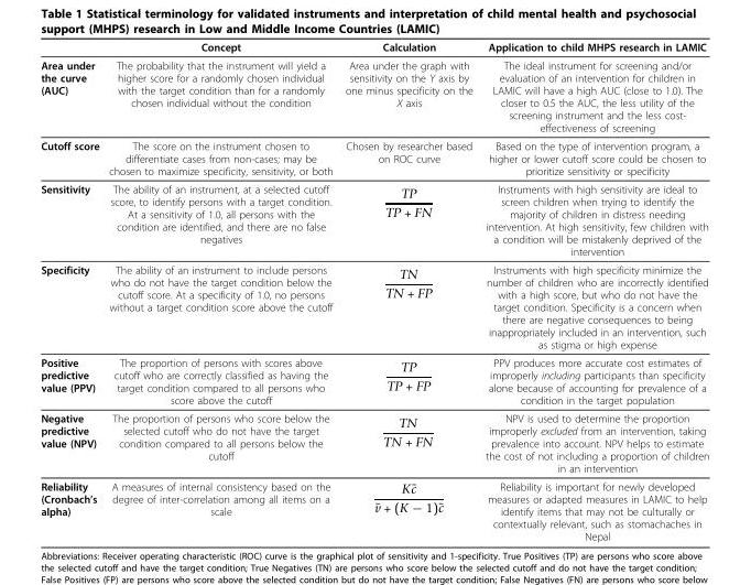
<table><thead><tr><td></td><td>Concept</td><td>Calculation</td><td>Application to child MHPS research in LAMIC</td></tr></thead><tbody><tr><td>Area under the curve (AUC)</td><td>The probability that the instrument will yield a higher score for a randomly chosen individual with the target condition than for a randomly chosen individual without the condition</td><td>Area under the graph with sensitivity on the Y axis by one minus specificity on the X axis</td><td>The ideal instrument for screening and/or evaluation of an intervention for children in LAMIC will have a high AUC (close to 1.0). The closer to 0.5 the AUC, the less utility of the screening instrument and the less cost- effectiveness of screening</td></tr><tr><td>Cutoff score</td><td>The score on the instrument chosen to differentiate cases from non-cases; may be chosen to maximize specificity, sensitivity, or both</td><td>Chosen by researcher based on ROC curve</td><td>Based on the type of intervention program, a higher or lower cutoff score could be chosen to prioritize sensitivity or specificity</td></tr><tr><td>Sensitivity</td><td>The ability of an instrument, at a selected cutoff score, to identify persons with a target condition. At a sensitivity of 1.0, all persons with the condition are identified, and there are no false negatives</td><td>TP TP + FN</td><td>Instruments with high sensitivity are ideal to screen children when trying to identify the majority of children in distress needing intervention. At high sensitivity, few children with a condition will be mistakenly deprived of the intervention</td></tr><tr><td>Specificity</td><td>The ability of an instrument to include persons who do not have the target condition below the cutoff score. At a specificity of 1.0, no persons without a target condition score above the cutoff</td><td>TN TN + FP</td><td>Instruments with high specificity minimize the number of children who are incorrectly identified with a high score, but who do not have the target condition. Specificity is a concern when there are negative consequences to being inappropriately included in an intervention, such as stigma or high expense</td></tr><tr><td>Positive predictive value (PPV)</td><td>The proportion of persons with scores above cutoff who are correctly classified as having the target condition compared to all persons who score above the cutoff</td><td>TP TP + FP</td><td>PPV produces more accurate cost estimates of improperly including participants than specificity alone because of accounting for prevalence of a condition in the target population</td></tr><tr><td>Negative predictive value (NPV)</td><td>The proportion of persons who score below the selected cutoff who do not have the target condition compared to all persons below the cutoff</td><td>TN TN + FN</td><td>NPV is used to determine the proportion improperly excluded from an intervention, taking prevalence into account. NPV helps to estimate the cost of not including a proportion of children in an intervention</td></tr><tr><td>Reliability (Cronbach’s alpha)</td><td>A measures of internal consistency based on the degree of inter-correlation among all items on a scale</td><td>K¯c ¯v + (K − 1)¯c</td><td>Reliability is important for newly developed measures or adapted measures in LAMIC to help identify items that may not be culturally or contextually relevant, such as stomachaches in Nepal</td></tr></tbody></table>